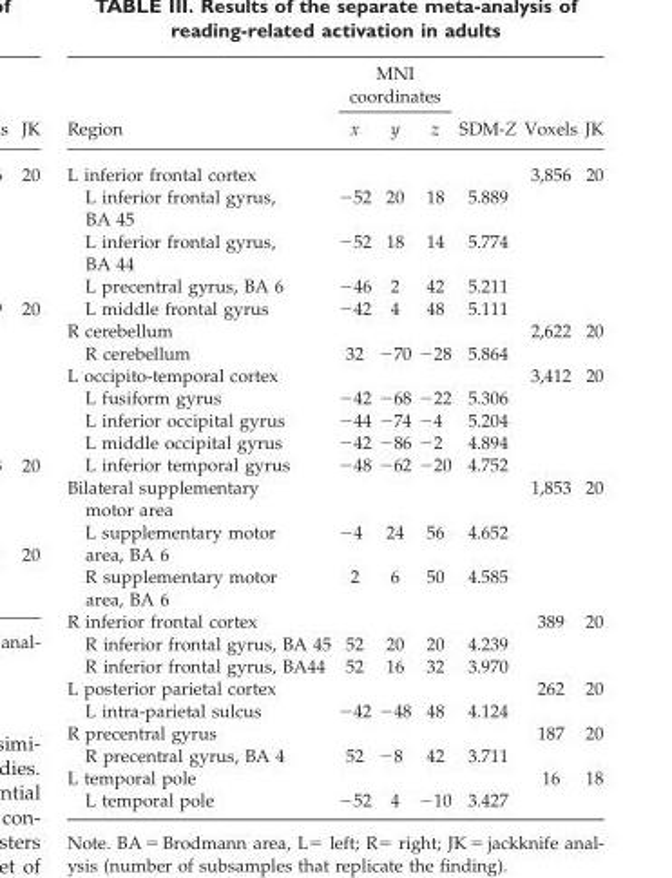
<table><thead><tr><td rowspan="2">Region</td><td colspan="3">MNI coordinates</td><td rowspan="2">SDM-Z</td><td rowspan="2">Voxels</td><td rowspan="2">JK</td></tr><tr><td>x</td><td>y</td><td>z</td></tr></thead><tbody><tr><td>L inferior frontal cortex</td><td></td><td></td><td></td><td></td><td>3,856</td><td>20</td></tr><tr><td>L inferior frontal gyrus, BA 45</td><td>−52</td><td>20</td><td>18</td><td>5.889</td><td></td><td></td></tr><tr><td>L inferior frontal gyrus, BA 44</td><td>−52</td><td>18</td><td>14</td><td>5.774</td><td></td><td></td></tr><tr><td>L precentral gyrus, BA 6</td><td>−46</td><td>2</td><td>42</td><td>5.211</td><td></td><td></td></tr><tr><td>L middle frontal gyrus</td><td>−42</td><td>4</td><td>48</td><td>5.111</td><td></td><td></td></tr><tr><td>R cerebellum</td><td></td><td></td><td></td><td></td><td>2,622</td><td>20</td></tr><tr><td>R cerebellum</td><td>32</td><td>−70</td><td>−28</td><td>5.864</td><td></td><td></td></tr><tr><td>L occipito-temporal cortex</td><td></td><td></td><td></td><td></td><td>3,412</td><td>20</td></tr><tr><td>L fusiform gyrus</td><td>−42</td><td>−68</td><td>−22</td><td>5.306</td><td></td><td></td></tr><tr><td>L inferior occipital gyrus</td><td>−44</td><td>−74</td><td>−4</td><td>5.204</td><td></td><td></td></tr><tr><td>L middle occipital gyrus</td><td>−42</td><td>−86</td><td>−2</td><td>4.894</td><td></td><td></td></tr><tr><td>L inferior temporal gyrus</td><td>−48</td><td>−62</td><td>−20</td><td>4.752</td><td></td><td></td></tr><tr><td>Bilateral supplementary motor area</td><td></td><td></td><td></td><td></td><td>1,853</td><td>20</td></tr><tr><td>L supplementary motor area, BA 6</td><td>−4</td><td>24</td><td>56</td><td>4.652</td><td></td><td></td></tr><tr><td>R supplementary motor area, BA 6</td><td>2</td><td>6</td><td>50</td><td>4.585</td><td></td><td></td></tr><tr><td>R inferior frontal cortex</td><td></td><td></td><td></td><td></td><td>389</td><td>20</td></tr><tr><td>R inferior frontal gyrus, BA 45</td><td>52</td><td>20</td><td>20</td><td>4.239</td><td></td><td></td></tr><tr><td>R inferior frontal gyrus, BA44</td><td>52</td><td>16</td><td>32</td><td>3.970</td><td></td><td></td></tr><tr><td>L posterior parietal cortex</td><td></td><td></td><td></td><td></td><td>262</td><td>20</td></tr><tr><td>L intra-parietal sulcus</td><td>−42</td><td>−48</td><td>48</td><td>4.124</td><td></td><td></td></tr><tr><td>R precentral gyrus</td><td></td><td></td><td></td><td></td><td>187</td><td>20</td></tr><tr><td>R precentral gyrus, BA 4</td><td>52</td><td>−8</td><td>42</td><td>3.711</td><td></td><td></td></tr><tr><td>L temporal pole</td><td></td><td></td><td></td><td></td><td>16</td><td>18</td></tr><tr><td>L temporal pole</td><td>−52</td><td>4</td><td>−10</td><td>3.427</td><td></td><td></td></tr></tbody></table>